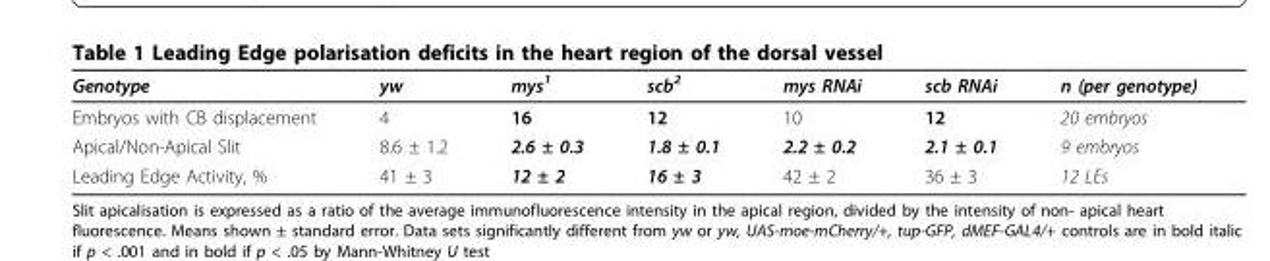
<table><thead><tr><td>Genotype</td><td>yw</td><td>mys<sup>1</sup></td><td>scb<sup>2</sup></td><td>mys RNAi</td><td>scb RNAi</td><td>n (per genotype)</td></tr></thead><tbody><tr><td>Embryos with CB displacement</td><td>4</td><td>16</td><td>12</td><td>10</td><td>12</td><td>20 embryos</td></tr><tr><td>Apical/Non-Apical Slit</td><td>8.6 ± 1.2</td><td>2.6 ± 0.3</td><td>1.8 ± 0.1</td><td>2.2 ± 0.2</td><td>2.1 ± 0.1</td><td>9 embryos</td></tr><tr><td>Leading Edge Activity, %</td><td>41 ± 3</td><td>12 ± 2</td><td>16 ± 3</td><td>42 ± 2</td><td>36 ± 3</td><td>12 LEs</td></tr></tbody></table>